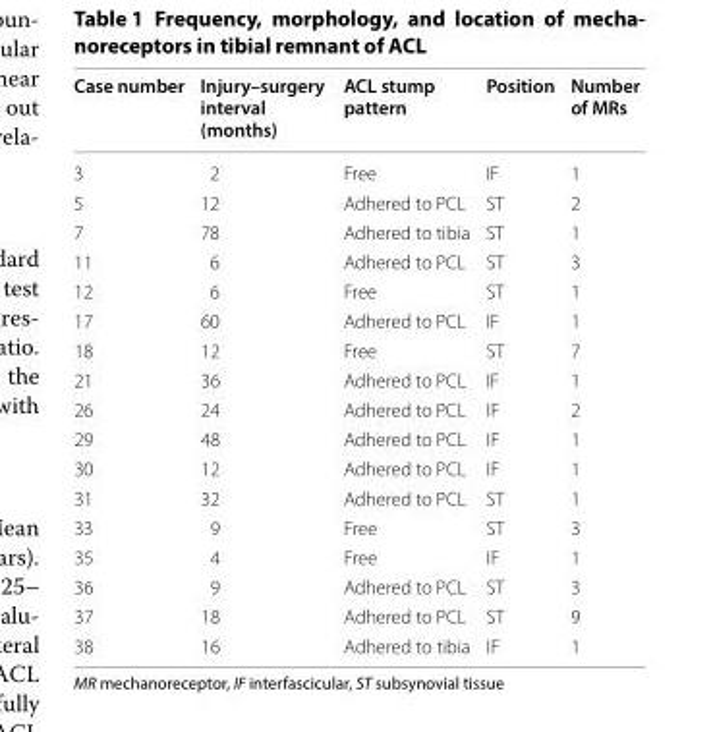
<table><thead><tr><td>Case number</td><td>Injury–surgery interval (months)</td><td>ACL stump pattern</td><td>Position</td><td>Number of MRs</td></tr></thead><tbody><tr><td>3</td><td>2</td><td>Free</td><td>IF</td><td>1</td></tr><tr><td>5</td><td>12</td><td>Adhered to PCL</td><td>ST</td><td>2</td></tr><tr><td>7</td><td>78</td><td>Adhered to tibia</td><td>ST</td><td>1</td></tr><tr><td>11</td><td>6</td><td>Adhered to PCL</td><td>ST</td><td>3</td></tr><tr><td>12</td><td>6</td><td>Free</td><td>ST</td><td>1</td></tr><tr><td>17</td><td>60</td><td>Adhered to PCL</td><td>IF</td><td>1</td></tr><tr><td>18</td><td>12</td><td>Free</td><td>ST</td><td>7</td></tr><tr><td>21</td><td>36</td><td>Adhered to PCL</td><td>IF</td><td>1</td></tr><tr><td>26</td><td>24</td><td>Adhered to PCL</td><td>IF</td><td>2</td></tr><tr><td>29</td><td>48</td><td>Adhered to PCL</td><td>IF</td><td>1</td></tr><tr><td>30</td><td>12</td><td>Adhered to PCL</td><td>IF</td><td>1</td></tr><tr><td>31</td><td>32</td><td>Adhered to PCL</td><td>ST</td><td>1</td></tr><tr><td>33</td><td>9</td><td>Free</td><td>ST</td><td>3</td></tr><tr><td>35</td><td>4</td><td>Free</td><td>IF</td><td>1</td></tr><tr><td>36</td><td>9</td><td>Adhered to PCL</td><td>ST</td><td>3</td></tr><tr><td>37</td><td>18</td><td>Adhered to PCL</td><td>ST</td><td>9</td></tr><tr><td>38</td><td>16</td><td>Adhered to tibia</td><td>IF</td><td>1</td></tr></tbody></table>